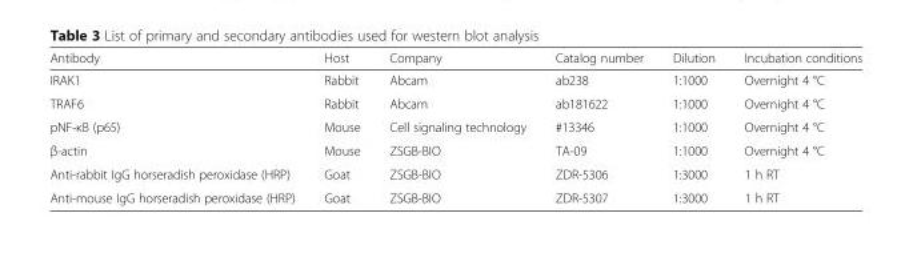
<table><thead><tr><td>Antibody</td><td>Host</td><td>Company</td><td>Catalog number</td><td>Dilution</td><td>Incubation conditions</td></tr></thead><tbody><tr><td>IRAK1</td><td>Rabbit</td><td>Abcam</td><td>ab238</td><td>1:1000</td><td>Overnight 4 °C</td></tr><tr><td>TRAF6</td><td>Rabbit</td><td>Abcam</td><td>ab181622</td><td>1:1000</td><td>Overnight 4 °C</td></tr><tr><td>pNF-κB (p65)</td><td>Mouse</td><td>Cell signaling technology</td><td>#13346</td><td>1:1000</td><td>Overnight 4 °C</td></tr><tr><td>β-actin</td><td>Mouse</td><td>ZSGB-BIO</td><td>TA-09</td><td>1:1000</td><td>Overnight 4 °C</td></tr><tr><td>Anti-rabbit IgG horseradish peroxidase (HRP)</td><td>Goat</td><td>ZSGB-BIO</td><td>ZDR-5306</td><td>1:3000</td><td>1 h RT</td></tr><tr><td>Anti-mouse IgG horseradish peroxidase (HRP)</td><td>Goat</td><td>ZSGB-BIO</td><td>ZDR-5307</td><td>1:3000</td><td>1 h RT</td></tr></tbody></table>